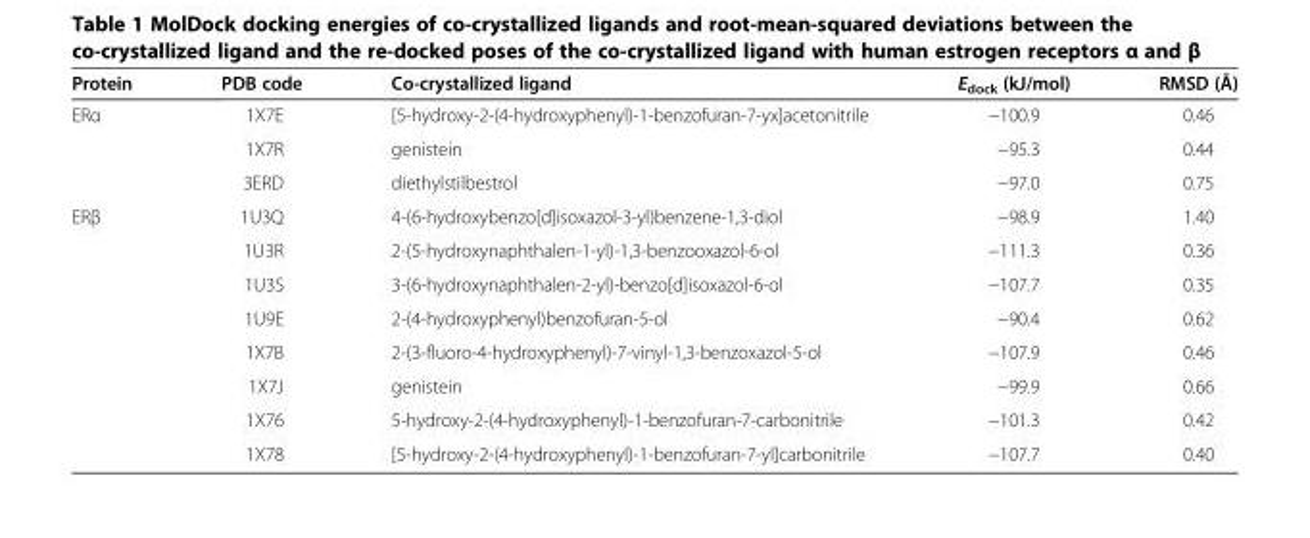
<table><thead><tr><td>Protein</td><td>PDB code</td><td>Co-crystallized ligand</td><td>E<sub>dock</sub> (kJ/mol)</td><td>RMSD (Å)</td></tr></thead><tbody><tr><td rowspan="3">ERα</td><td>1X7E</td><td>[5-hydroxy-2-(4-hydroxyphenyl)-1-benzofuran-7-yx]acetonitrile</td><td>−100.9</td><td>0.46</td></tr><tr><td>1X7R</td><td>genistein</td><td>−95.3</td><td>0.44</td></tr><tr><td>3ERD</td><td>diethylstilbestrol</td><td>−97.0</td><td>0.75</td></tr><tr><td rowspan="8">ERβ</td><td>1U3Q</td><td>4-(6-hydroxybenzo[d]isoxazol-3-yl)benzene-1,3-diol</td><td>−98.9</td><td>1.40</td></tr><tr><td>1U3R</td><td>2-(5-hydroxynaphthalen-1-yl)-1,3-benzooxazol-6-ol</td><td>−111.3</td><td>0.36</td></tr><tr><td>1U3S</td><td>3-(6-hydroxynaphthalen-2-yl)-benzo[d]isoxazol-6-ol</td><td>−107.7</td><td>0.35</td></tr><tr><td>1U9E</td><td>2-(4-hydroxyphenyl)benzofuran-5-ol</td><td>−90.4</td><td>0.62</td></tr><tr><td>1X7B</td><td>2-(3-fluoro-4-hydroxyphenyl)-7-vinyl-1,3-benzoxazol-5-ol</td><td>−107.9</td><td>0.46</td></tr><tr><td>1X7J</td><td>genistein</td><td>−99.9</td><td>0.66</td></tr><tr><td>1X76</td><td>5-hydroxy-2-(4-hydroxyphenyl)-1-benzofuran-7-carbonitrile</td><td>−101.3</td><td>0.42</td></tr><tr><td>1X78</td><td>[5-hydroxy-2-(4-hydroxyphenyl)-1-benzofuran-7-yl]carbonitrile</td><td>−107.7</td><td>0.40</td></tr></tbody></table>